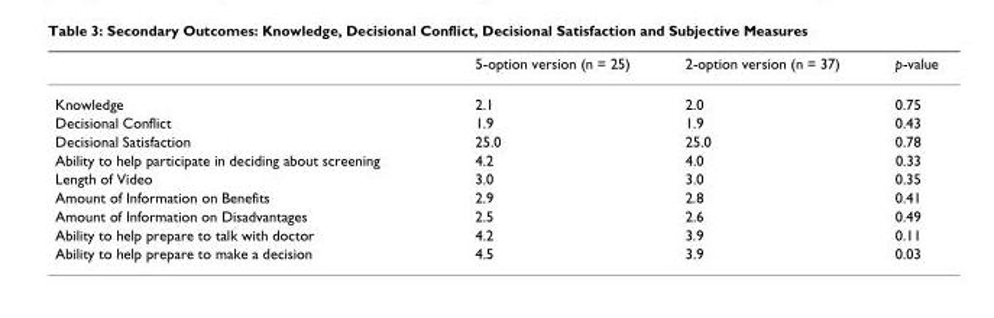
<table><thead><tr><td></td><td>5-option version (n = 25)</td><td>2-option version (n = 37)</td><td>p-value</td></tr></thead><tbody><tr><td>Knowledge</td><td>2.1</td><td>2.0</td><td>0.75</td></tr><tr><td>Decisional Conflict</td><td>1.9</td><td>1.9</td><td>0.43</td></tr><tr><td>Decisional Satisfaction</td><td>25.0</td><td>25.0</td><td>0.78</td></tr><tr><td>Ability to help participate in deciding about screening</td><td>4.2</td><td>4.0</td><td>0.33</td></tr><tr><td>Length of Video</td><td>3.0</td><td>3.0</td><td>0.35</td></tr><tr><td>Amount of Information on Benefits</td><td>2.9</td><td>2.8</td><td>0.41</td></tr><tr><td>Amount of Information on Disadvantages</td><td>2.5</td><td>2.6</td><td>0.49</td></tr><tr><td>Ability to help prepare to talk with doctor</td><td>4.2</td><td>3.9</td><td>0.11</td></tr><tr><td>Ability to help prepare to make a decision</td><td>4.5</td><td>3.9</td><td>0.03</td></tr></tbody></table>